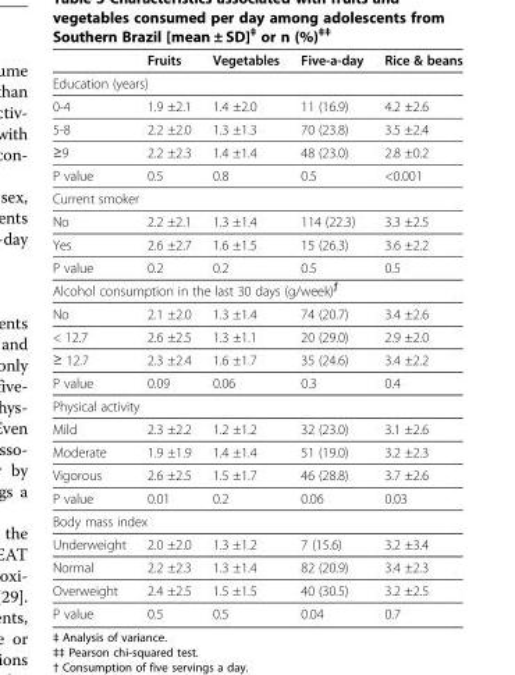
<table><thead><tr><td></td><td>Fruits</td><td>Vegetables</td><td>Five-a-day</td><td>Rice &amp; beans</td></tr></thead><tbody><tr><td colspan="5">Education (years)</td></tr><tr><td>0-4</td><td>1.9 ±2.1</td><td>1.4 ±2.0</td><td>11 (16.9)</td><td>4.2 ±2.6</td></tr><tr><td>5-8</td><td>2.2 ±2.0</td><td>1.3 ±1.3</td><td>70 (23.8)</td><td>3.5 ±2.4</td></tr><tr><td>≥9</td><td>2.2 ±2.3</td><td>1.4 ±1.4</td><td>48 (23.0)</td><td>2.8 ±0.2</td></tr><tr><td>P value</td><td>0.5</td><td>0.8</td><td>0.5</td><td>&lt;0.001</td></tr><tr><td colspan="5">Current smoker</td></tr><tr><td>No</td><td>2.2 ±2.1</td><td>1.3 ±1.4</td><td>114 (22.3)</td><td>3.3 ±2.5</td></tr><tr><td>Yes</td><td>2.6 ±2.7</td><td>1.6 ±1.5</td><td>15 (26.3)</td><td>3.6 ±2.2</td></tr><tr><td>P value</td><td>0.2</td><td>0.2</td><td>0.5</td><td>0.5</td></tr><tr><td colspan="5">Alcohol consumption in the last 30 days (g/week)<sup>ƒ</sup></td></tr><tr><td>No</td><td>2.1 ±2.0</td><td>1.3 ±1.4</td><td>74 (20.7)</td><td>3.4 ±2.6</td></tr><tr><td>&lt; 12.7</td><td>2.6 ±2.5</td><td>1.3 ±1.1</td><td>20 (29.0)</td><td>2.9 ±2.0</td></tr><tr><td>≥ 12.7</td><td>2.3 ±2.4</td><td>1.6 ±1.7</td><td>35 (24.6)</td><td>3.4 ±2.2</td></tr><tr><td>P value</td><td>0.09</td><td>0.06</td><td>0.3</td><td>0.4</td></tr><tr><td colspan="5">Physical activity</td></tr><tr><td>Mild</td><td>2.3 ±2.2</td><td>1.2 ±1.2</td><td>32 (23.0)</td><td>3.1 ±2.6</td></tr><tr><td>Moderate</td><td>1.9 ±1.9</td><td>1.4 ±1.4</td><td>51 (19.0)</td><td>3.2 ±2.3</td></tr><tr><td>Vigorous</td><td>2.6 ±2.5</td><td>1.5 ±1.7</td><td>46 (28.8)</td><td>3.7 ±2.6</td></tr><tr><td>P value</td><td>0.01</td><td>0.2</td><td>0.06</td><td>0.03</td></tr><tr><td colspan="5">Body mass index</td></tr><tr><td>Underweight</td><td>2.0 ±2.0</td><td>1.3 ±1.2</td><td>7 (15.6)</td><td>3.2 ±3.4</td></tr><tr><td>Normal</td><td>2.2 ±2.3</td><td>1.3 ±1.4</td><td>82 (20.9)</td><td>3.4 ±2.3</td></tr><tr><td>Overweight</td><td>2.4 ±2.5</td><td>1.5 ±1.5</td><td>40 (30.5)</td><td>3.2 ±2.5</td></tr><tr><td>P value</td><td>0.5</td><td>0.5</td><td>0.04</td><td>0.7</td></tr></tbody></table>